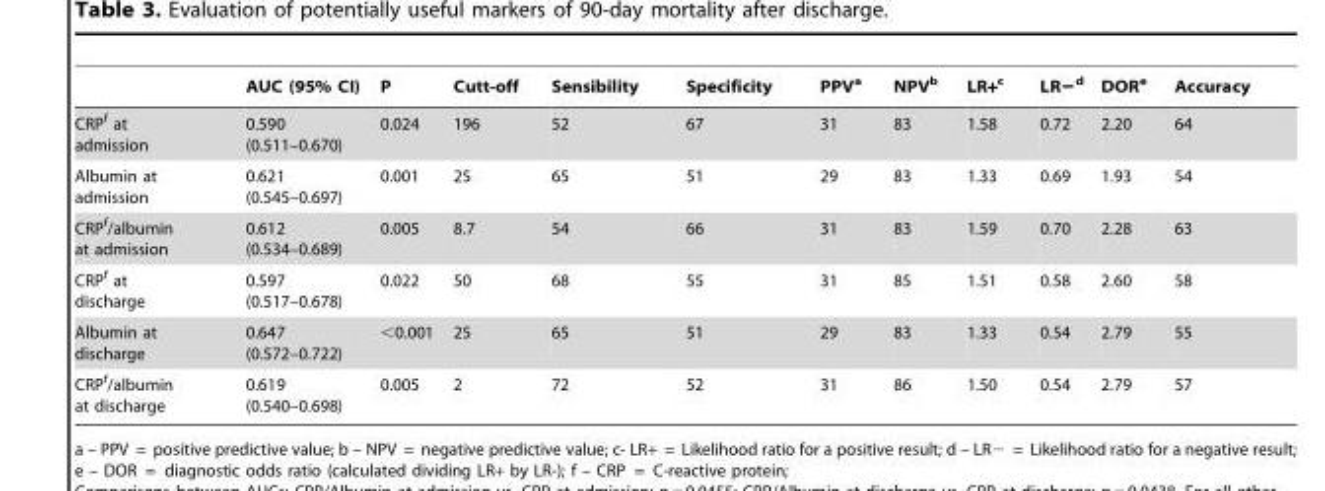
<table><thead><tr><td></td><td>AUC (95% CI)</td><td>P</td><td>Cutt-off</td><td>Sensibility</td><td>Specificity</td><td>PPV<sup>a</sup></td><td>NPV<sup>b</sup></td><td>LR+<sup>c</sup></td><td>LR−<sup>d</sup></td><td>DOR<sup>e</sup></td><td>Accuracy</td></tr></thead><tbody><tr><td>CRP<sup>f</sup> at admission</td><td>0.590 (0.511–0.670)</td><td>0.024</td><td>196</td><td>52</td><td>67</td><td>31</td><td>83</td><td>1.58</td><td>0.72</td><td>2.20</td><td>64</td></tr><tr><td>Albumin at admission</td><td>0.621 (0.545–0.697)</td><td>0.001</td><td>25</td><td>65</td><td>51</td><td>29</td><td>83</td><td>1.33</td><td>0.69</td><td>1.93</td><td>54</td></tr><tr><td>CRP<sup>f</sup>/albumin at admission</td><td>0.612 (0.534–0.689)</td><td>0.005</td><td>8.7</td><td>54</td><td>66</td><td>31</td><td>83</td><td>1.59</td><td>0.70</td><td>2.28</td><td>63</td></tr><tr><td>CRP<sup>f</sup> at discharge</td><td>0.597 (0.517–0.678)</td><td>0.022</td><td>50</td><td>68</td><td>55</td><td>31</td><td>85</td><td>1.51</td><td>0.58</td><td>2.60</td><td>58</td></tr><tr><td>Albumin at discharge</td><td>0.647 (0.572–0.722)</td><td>&lt;0.001</td><td>25</td><td>65</td><td>51</td><td>29</td><td>83</td><td>1.33</td><td>0.54</td><td>2.79</td><td>55</td></tr><tr><td>CRP<sup>f</sup>/albumin at discharge</td><td>0.619 (0.540–0.698)</td><td>0.005</td><td>2</td><td>72</td><td>52</td><td>31</td><td>86</td><td>1.50</td><td>0.54</td><td>2.79</td><td>57</td></tr></tbody></table>